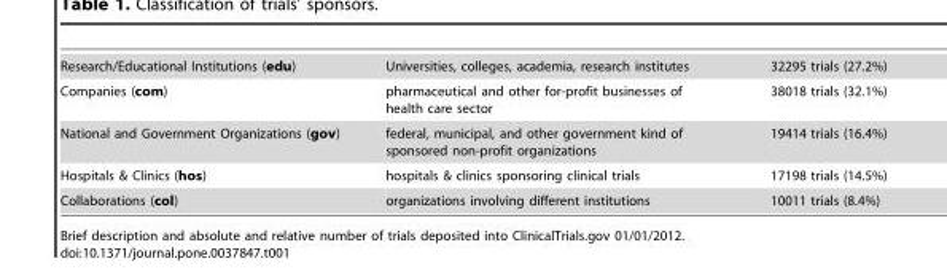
<table><tbody><tr><td>Research/Educational Institutions (edu)</td><td>Universities, colleges, academia, research institutes</td><td>32295 trials (27.2%)</td></tr><tr><td>Companies (com)</td><td>pharmaceutical and other for-profit businesses of health care sector</td><td>38018 trials (32.1%)</td></tr><tr><td>National and Government Organizations (gov)</td><td>federal, municipal, and other government kind of sponsored non-profit organizations</td><td>19414 trials (16.4%)</td></tr><tr><td>Hospitals &amp; Clinics (hos)</td><td>hospitals &amp; clinics sponsoring clinical trials</td><td>17198 trials (14.5%)</td></tr><tr><td>Collaborations (col)</td><td>organizations involving different institutions</td><td>10011 trials (8.4%)</td></tr></tbody></table>